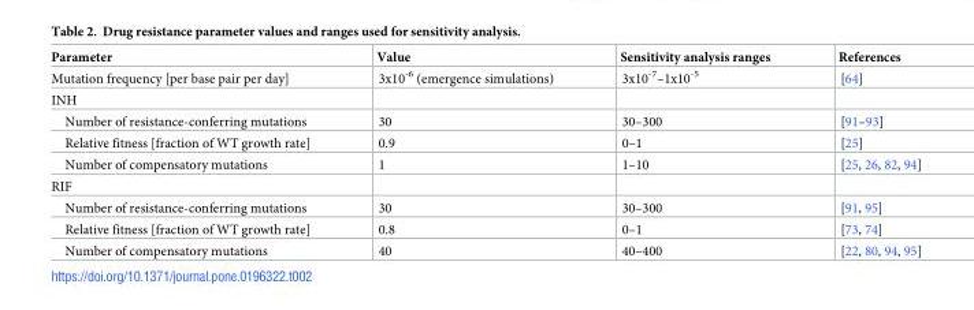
<table><thead><tr><td>Parameter</td><td>Value</td><td>Sensitivity analysis ranges</td><td>References</td></tr></thead><tbody><tr><td>Mutation frequency [per base pair per day]</td><td>3x10<sup>-6</sup> (emergence simulations)</td><td>3x10<sup>-7</sup>–1x10<sup>-5</sup></td><td>[64]</td></tr><tr><td colspan="4">INH</td></tr><tr><td>Number of resistance-conferring mutations</td><td>30</td><td>30–300</td><td>[91–93]</td></tr><tr><td>Relative fitness [fraction of WT growth rate]</td><td>0.9</td><td>0–1</td><td>[25]</td></tr><tr><td>Number of compensatory mutations</td><td>1</td><td>1–10</td><td>[25, 26, 82, 94]</td></tr><tr><td colspan="4">RIF</td></tr><tr><td>Number of resistance-conferring mutations</td><td>30</td><td>30–300</td><td>[91, 95]</td></tr><tr><td>Relative fitness [fraction of WT growth rate]</td><td>0.8</td><td>0–1</td><td>[73, 74]</td></tr><tr><td>Number of compensatory mutations</td><td>40</td><td>40–400</td><td>[22, 80, 94, 95]</td></tr></tbody></table>